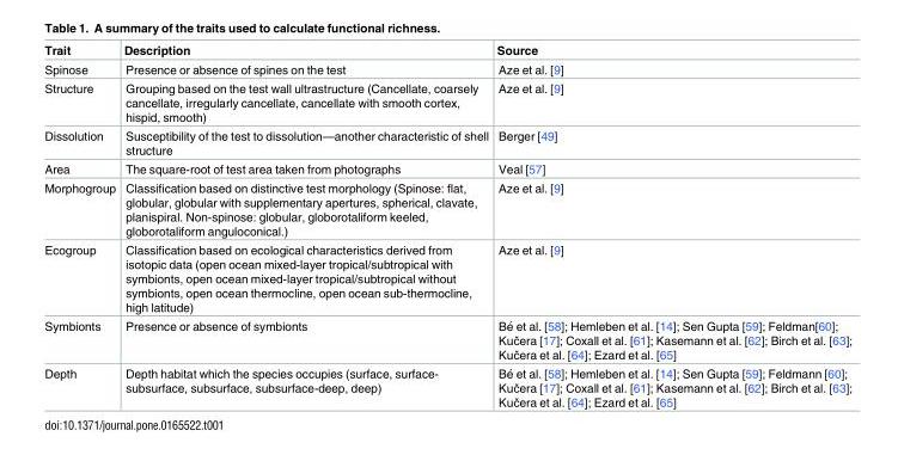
<table><thead><tr><td>Trait</td><td>Description</td><td>Source</td></tr></thead><tbody><tr><td>Spinose</td><td>Presence or absence of spines on the test</td><td>Aze et al. [9]</td></tr><tr><td>Structure</td><td>Grouping based on the test wall ultrastructure (Cancellate, coarsely cancellate, irregularly cancellate, cancellate with smooth cortex, hispid, smooth)</td><td>Aze et al. [9]</td></tr><tr><td>Dissolution</td><td>Susceptibility of the test to dissolution—another characteristic of shell structure</td><td>Berger [49]</td></tr><tr><td>Area</td><td>The square-root of test area taken from photographs</td><td>Veal [57]</td></tr><tr><td>Morphogroup</td><td>Classification based on distinctive test morphology (Spinose: flat, globular, globular with supplementary apertures, spherical, clavate, planispiral. Non-spinose: globular, globorotaliform keeled, globorotaliform anguloconical.)</td><td>Aze et al. [9]</td></tr><tr><td>Ecogroup</td><td>Classification based on ecological characteristics derived from isotopic data (open ocean mixed-layer tropical/subtropical with symbionts, open ocean mixed-layer tropical/subtropical without symbionts, open ocean thermocline, open ocean sub-thermocline, high latitude)</td><td>Aze et al. [9]</td></tr><tr><td>Symbionts</td><td>Presence or absence of symbionts</td><td>Be´ et al. [58]; Hemleben et al. [14]; Sen Gupta [59]; Feldman[60]; Kučera [17]; Coxall et al. [61]; Kasemann et al. [62]; Birch et al. [63]; Kučera et al. [64]; Ezard et al. [65]</td></tr><tr><td>Depth</td><td>Depth habitat which the species occupies (surface, surface- subsurface, subsurface, subsurface-deep, deep)</td><td>Be´ et al. [58]; Hemleben et al. [14]; Sen Gupta [59]; Feldmann [60]; Kučera [17]; Coxall et al. [61]; Kasemann et al. [62]; Birch et al. [63]; Kučera et al. [64]; Ezard et al. [65]</td></tr></tbody></table>